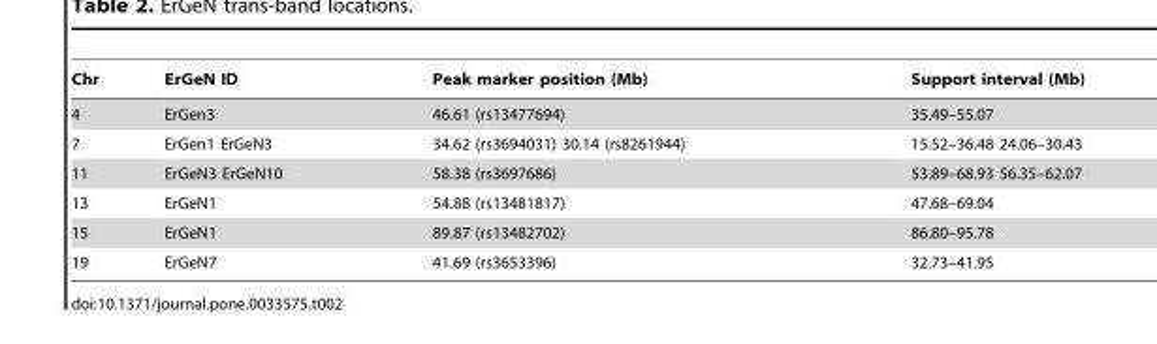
<table><thead><tr><td>Chr</td><td>ErGeN ID</td><td>Peak marker position (Mb)</td><td>Support interval (Mb)</td></tr></thead><tbody><tr><td>4</td><td>ErGen3</td><td>46.61 (rs13477694)</td><td>35.49–55.07</td></tr><tr><td>7</td><td>ErGen1 ErGeN3</td><td>34.62 (rs3694031) 30.14 (rs8261944)</td><td>15.52–36.48 24.06–30.43</td></tr><tr><td>11</td><td>ErGeN3 ErGeN10</td><td>58.38 (rs3697686)</td><td>53.89–68.93 56.35–62.07</td></tr><tr><td>13</td><td>ErGeN1</td><td>54.88 (rs13481817)</td><td>47.68–69.04</td></tr><tr><td>15</td><td>ErGeN1</td><td>89.87 (rs13482702)</td><td>86.80–95.78</td></tr><tr><td>19</td><td>ErGeN7</td><td>41.69 (rs3653396)</td><td>32.73–41.95</td></tr></tbody></table>